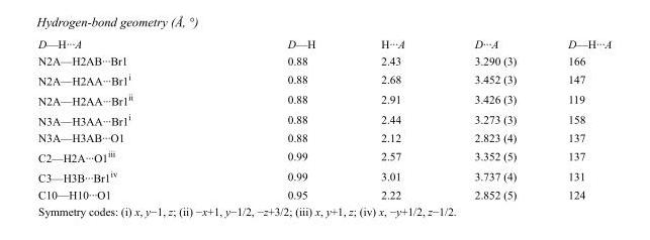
<table><tbody><tr><td>D—H···A</td><td>D—H</td><td>H···A</td><td>D···A</td><td>D—H···A</td></tr><tr><td>N2A—H2AB···Br1</td><td>0.88</td><td>2.43</td><td>3.290 (3)</td><td>166</td></tr><tr><td>N2A—H2AA···Br1<sup>i</sup></td><td>0.88</td><td>2.68</td><td>3.452 (3)</td><td>147</td></tr><tr><td>N2A—H2AA···Br1<sup>ii</sup></td><td>0.88</td><td>2.91</td><td>3.426 (3)</td><td>119</td></tr><tr><td>N3A—H3AA···Br1<sup>i</sup></td><td>0.88</td><td>2.44</td><td>3.273 (3)</td><td>158</td></tr><tr><td>N3A—H3AB···O1</td><td>0.88</td><td>2.12</td><td>2.823 (4)</td><td>137</td></tr><tr><td>C2—H2A···O1<sup>iii</sup></td><td>0.99</td><td>2.57</td><td>3.352 (5)</td><td>137</td></tr><tr><td>C3—H3B···Br1<sup>iv</sup></td><td>0.99</td><td>3.01</td><td>3.737 (4)</td><td>131</td></tr><tr><td>C10—H10···O1</td><td>0.95</td><td>2.22</td><td>2.852 (5)</td><td>124</td></tr></tbody></table>